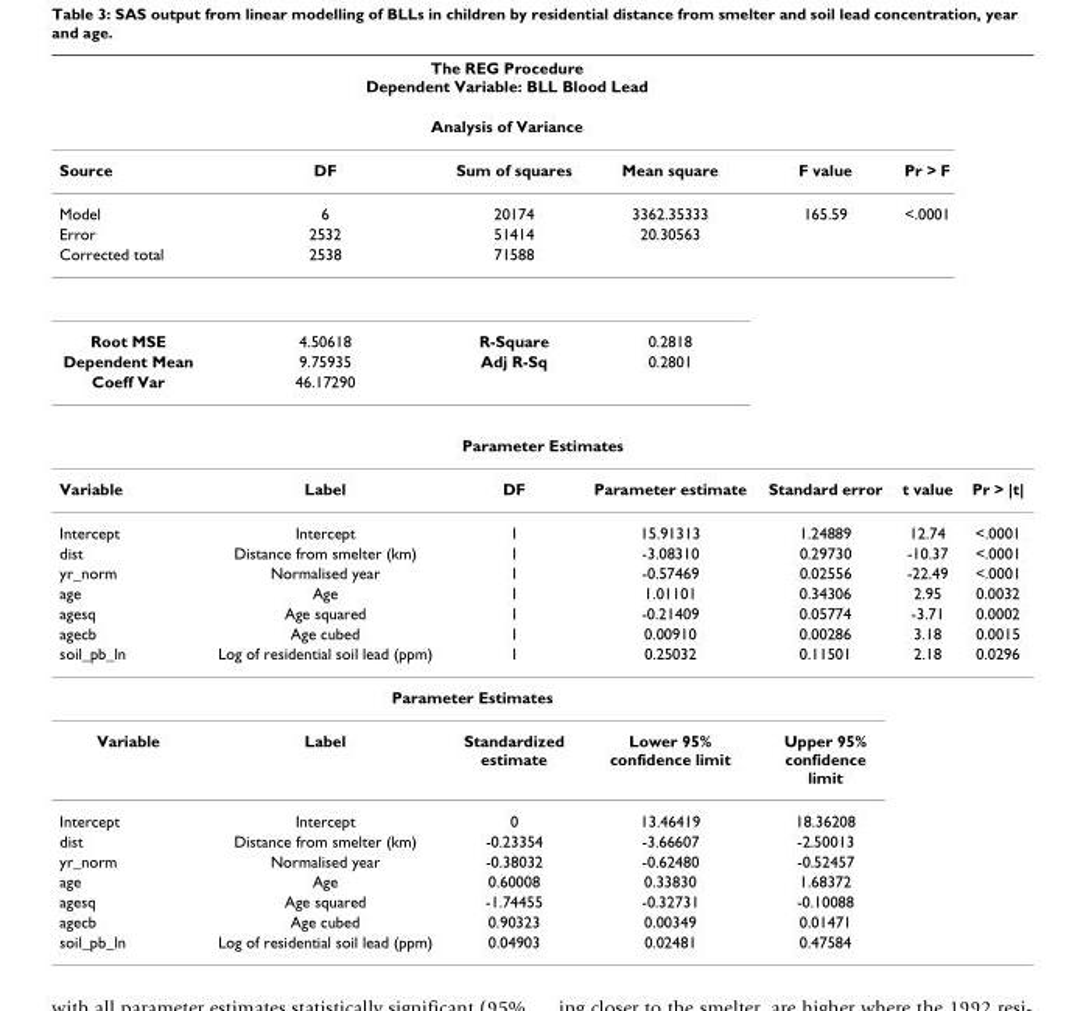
<table><thead><tr><td rowspan="2" colspan="6">The REG Procedure Dependent Variable: BLL Blood Lead Analysis of Variance</td><td rowspan="9"></td></tr><tr></tr><tr><td rowspan="7">Source Model Error Corrected total Root MSE Dependent Mean Coeff Var</td><td rowspan="7">DF 6 2532 2538 4.50618 9.75935 46.17290</td><td rowspan="7">Sum of squares 20174 51414 71588 R-Square Adj R-Sq</td><td rowspan="7">Mean square 3362.35333 20.30563 0.2818 0.2801</td><td rowspan="7">F value 165.59</td><td rowspan="7">Pr &gt; F &lt;.0001</td></tr><tr></tr><tr></tr><tr></tr><tr></tr><tr></tr><tr></tr><tr><td colspan="7">Parameter Estimates</td></tr></thead><tbody><tr><td>Variable</td><td>Label</td><td>DF</td><td>Parameter estimate</td><td>Standard error</td><td>t value</td><td>Pr &gt; |t|</td></tr><tr><td>Intercept</td><td>Intercept</td><td>1</td><td>15.91313</td><td>1.24889</td><td>12.74</td><td>&lt;.0001</td></tr><tr><td>dist</td><td>Distance from smelter (km)</td><td>1</td><td>-3.08310</td><td>0.29730</td><td>-10.37</td><td>&lt;.0001</td></tr><tr><td>yr_norm</td><td>Normalised year</td><td>1</td><td>-0.57469</td><td>0.02556</td><td>-22.49</td><td>&lt;.0001</td></tr><tr><td>age</td><td>Age</td><td>1</td><td>1.01101</td><td>0.34306</td><td>2.95</td><td>0.0032</td></tr><tr><td>agesq</td><td>Age squared</td><td>1</td><td>-0.21409</td><td>0.05774</td><td>-3.71</td><td>0.0002</td></tr><tr><td>agecb</td><td>Age cubed</td><td>1</td><td>0.00910</td><td>0.00286</td><td>3.18</td><td>0.0015</td></tr><tr><td>soil_pb_ln</td><td>Log of residential soil lead (ppm)</td><td>1</td><td>0.25032</td><td>0.11501</td><td>2.18</td><td>0.0296</td></tr><tr><td colspan="7">Parameter Estimates</td></tr><tr><td>Variable</td><td>Label</td><td>Standardized estimate</td><td>Lower 95% confidence limit</td><td>Upper 95% confidence limit</td><td></td><td></td></tr><tr><td>Intercept</td><td>Intercept</td><td>0</td><td>13.46419</td><td>18.36208</td><td></td><td></td></tr><tr><td>dist</td><td>Distance from smelter (km)</td><td>-0.23354</td><td>-3.66607</td><td>-2.50013</td><td></td><td></td></tr><tr><td>yr_norm</td><td>Normalised year</td><td>-0.38032</td><td>-0.62480</td><td>-0.52457</td><td></td><td></td></tr><tr><td>age</td><td>Age</td><td>0.60008</td><td>0.33830</td><td>1.68372</td><td></td><td></td></tr><tr><td>agesq</td><td>Age squared</td><td>-1.74455</td><td>-0.32731</td><td>-0.10088</td><td></td><td></td></tr><tr><td>agecb</td><td>Age cubed</td><td>0.90323</td><td>0.00349</td><td>0.01471</td><td></td><td></td></tr><tr><td>soil_pb_ln</td><td>Log of residential soil lead (ppm)</td><td>0.04903</td><td>0.02481</td><td>0.47584</td><td></td><td></td></tr></tbody></table>